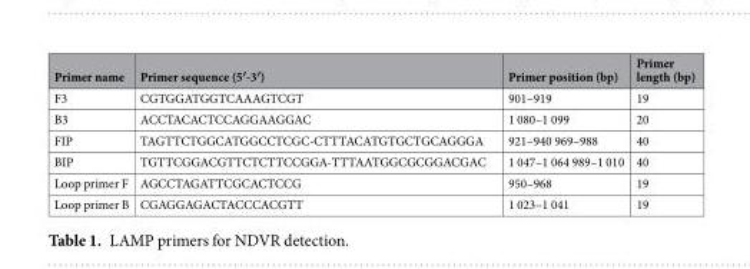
<table><thead><tr><td>Primer name</td><td>Primer sequence (5′-3′)</td><td>Primer position (bp)</td><td>Primer length (bp)</td></tr></thead><tbody><tr><td>F3</td><td>CGTGGATGGTCAAAGTCGT</td><td>901–919</td><td>19</td></tr><tr><td>B3</td><td>ACCTACACTCCAGGAAGGAC</td><td>1 080–1 099</td><td>20</td></tr><tr><td>FIP</td><td>TAGTTCTGGCATGGCCTCGC-CTTTACATGTGCTGCAGGGA</td><td>921–940 969–988</td><td>40</td></tr><tr><td>BIP</td><td>TGTTCGGACGTTCTCTTCCGGA-TTTAATGGCGCGGACGAC</td><td>1 047–1 064 989–1 010</td><td>40</td></tr><tr><td>Loop primer F</td><td>AGCCTAGATTCGCACTCCG</td><td>950–968</td><td>19</td></tr><tr><td>Loop primer B</td><td>CGAGGAGACTACCCACGTT</td><td>1 023–1 041</td><td>19</td></tr></tbody></table>